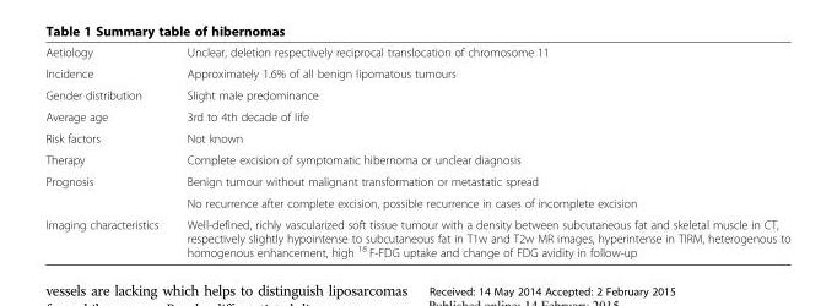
<table><tbody><tr><td>Aetiology</td><td>Unclear, deletion respectively reciprocal translocation of chromosome 11</td></tr><tr><td>Incidence</td><td>Approximately 1.6% of all benign lipomatous tumours</td></tr><tr><td>Gender distribution</td><td>Slight male predominance</td></tr><tr><td>Average age</td><td>3rd to 4th decade of life</td></tr><tr><td>Risk factors</td><td>Not known</td></tr><tr><td>Therapy</td><td>Complete excision of symptomatic hibernoma or unclear diagnosis</td></tr><tr><td rowspan="2">Prognosis</td><td>Benign tumour without malignant transformation or metastatic spread</td></tr><tr><td>No recurrence after complete excision, possible recurrence in cases of incomplete excision</td></tr><tr><td>Imaging characteristics</td><td>Well-defined, richly vascularized soft tissue tumour with a density between subcutaneous fat and skeletal muscle in CT, respectively slightly hypointense to subcutaneous fat in T1w and T2w MR images, hyperintense in TIRM, heterogenous to homogenous enhancement, high <sup>18</sup> F-FDG uptake and change of FDG avidity in follow-up</td></tr></tbody></table>